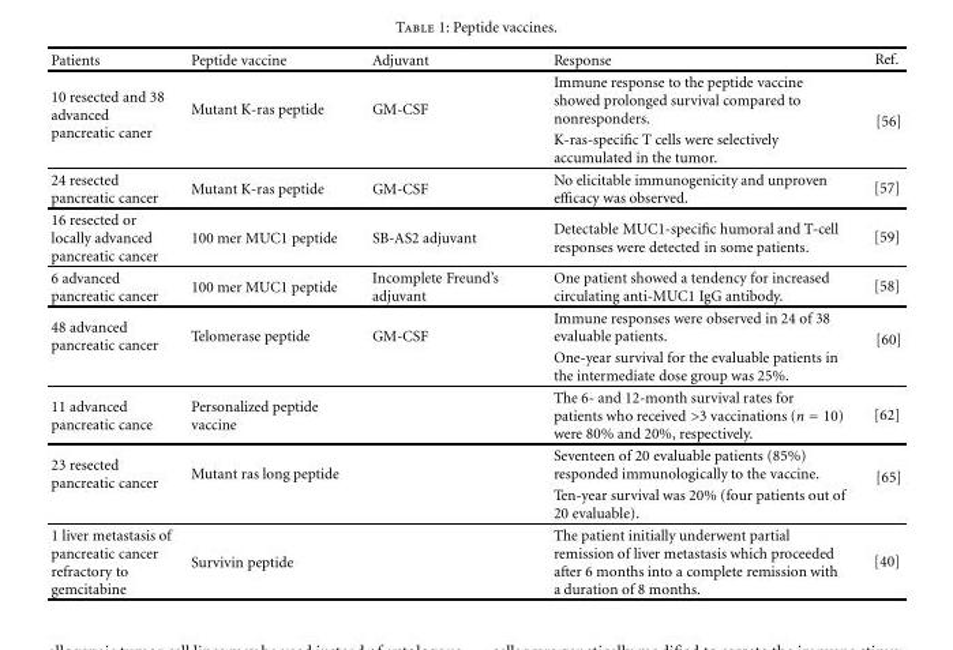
<table><thead><tr><td>Patients</td><td>Peptide vaccine</td><td>Adjuvant</td><td>Response</td><td>Ref.</td></tr></thead><tbody><tr><td rowspan="2">10 resected and 38 advanced pancreatic caner</td><td rowspan="2">Mutant K-ras peptide</td><td rowspan="2">GM-CSF</td><td>Immune response to the peptide vaccine showed prolonged survival compared to nonresponders.</td><td rowspan="2">[56]</td></tr><tr><td>K-ras-specific T cells were selectively accumulated in the tumor.</td></tr><tr><td>24 resected pancreatic cancer</td><td>Mutant K-ras peptide</td><td>GM-CSF</td><td>No elicitable immunogenicity and unproven efficacy was observed.</td><td>[57]</td></tr><tr><td>16 resected or locally advanced pancreatic cancer</td><td>100 mer MUC1 peptide</td><td>SB-AS2 adjuvant</td><td>Detectable MUC1-specific humoral and T-cell responses were detected in some patients.</td><td>[59]</td></tr><tr><td>6 advanced pancreatic cancer</td><td>100 mer MUC1 peptide</td><td>Incomplete Freund’s adjuvant</td><td>One patient showed a tendency for increased circulating anti-MUC1 IgG antibody.</td><td>[58]</td></tr><tr><td rowspan="2">48 advanced pancreatic cancer</td><td rowspan="2">Telomerase peptide</td><td rowspan="2">GM-CSF</td><td>Immune responses were observed in 24 of 38 evaluable patients.</td><td rowspan="2">[60]</td></tr><tr><td>One-year survival for the evaluable patients in the intermediate dose group was 25%.</td></tr><tr><td>11 advanced pancreatic cance</td><td>Personalized peptide vaccine</td><td></td><td>The 6- and 12-month survival rates for patients who received &gt;3 vaccinations (n = 10) were 80% and 20%, respectively.</td><td>[62]</td></tr><tr><td rowspan="2">23 resected pancreatic cancer</td><td rowspan="2">Mutant ras long peptide</td><td rowspan="2"></td><td>Seventeen of 20 evaluable patients (85%) responded immunologically to the vaccine.</td><td rowspan="2">[65]</td></tr><tr><td>Ten-year survival was 20% (four patients out of 20 evaluable).</td></tr><tr><td>1 liver metastasis of pancreatic cancer refractory to gemcitabine</td><td>Survivin peptide</td><td></td><td>The patient initially underwent partial remission of liver metastasis which proceeded after 6 months into a complete remission with a duration of 8 months.</td><td>[40]</td></tr></tbody></table>